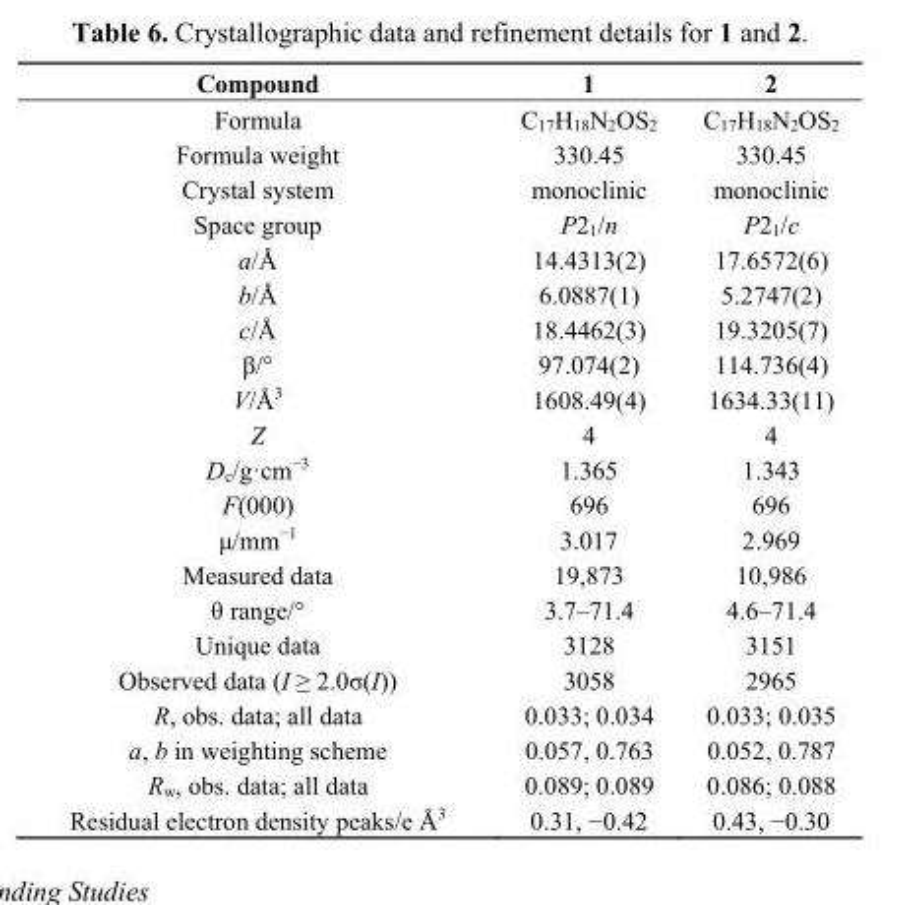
<table><thead><tr><td>Compound</td><td>1</td><td>2</td></tr></thead><tbody><tr><td>Formula</td><td>C<sub>17</sub>H<sub>18</sub>N<sub>2</sub>OS<sub>2</sub></td><td>C<sub>17</sub>H<sub>18</sub>N<sub>2</sub>OS<sub>2</sub></td></tr><tr><td>Formula weight</td><td>330.45</td><td>330.45</td></tr><tr><td>Crystal system</td><td>monoclinic</td><td>monoclinic</td></tr><tr><td>Space group</td><td>P2<sub>1</sub>/n</td><td>P2<sub>1</sub>/c</td></tr><tr><td>a/Å</td><td>14.4313(2)</td><td>17.6572(6)</td></tr><tr><td>b/Å</td><td>6.0887(1)</td><td>5.2747(2)</td></tr><tr><td>c/Å</td><td>18.4462(3)</td><td>19.3205(7)</td></tr><tr><td>β/°</td><td>97.074(2)</td><td>114.736(4)</td></tr><tr><td>V/Å<sup>3</sup></td><td>1608.49(4)</td><td>1634.33(11)</td></tr><tr><td>Z</td><td>4</td><td>4</td></tr><tr><td>D<sub>c</sub>/g·cm<sup>−3</sup></td><td>1.365</td><td>1.343</td></tr><tr><td>F(000)</td><td>696</td><td>696</td></tr><tr><td>μ/mm<sup>−1</sup></td><td>3.017</td><td>2.969</td></tr><tr><td>Measured data</td><td>19,873</td><td>10,986</td></tr><tr><td>θ range/°</td><td>3.7–71.4</td><td>4.6–71.4</td></tr><tr><td>Unique data</td><td>3128</td><td>3151</td></tr><tr><td>Observed data (I ≥ 2.0σ(I))</td><td>3058</td><td>2965</td></tr><tr><td>R, obs. data; all data</td><td>0.033; 0.034</td><td>0.033; 0.035</td></tr><tr><td>a, b in weighting scheme</td><td>0.057, 0.763</td><td>0.052, 0.787</td></tr><tr><td>R<sub>w</sub>, obs. data; all data</td><td>0.089; 0.089</td><td>0.086; 0.088</td></tr><tr><td>Residual electron density peaks/e Å<sup>3</sup></td><td>0.31, −0.42</td><td>0.43, −0.30</td></tr></tbody></table>